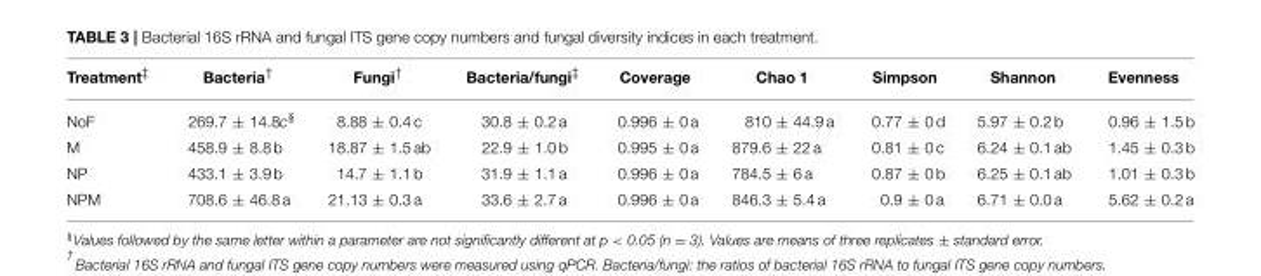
<table><thead><tr><td>Treatment<sup>‡</sup></td><td>Bacteria<sup>†</sup></td><td>Fungi<sup>†</sup></td><td>Bacteria/fungi<sup>‡</sup></td><td>Coverage</td><td>Chao 1</td><td>Simpson</td><td>Shannon</td><td>Evenness</td></tr></thead><tbody><tr><td>NoF</td><td>269.7 ± 14.8c<sup>§</sup></td><td>8.88 ± 0.4 c</td><td>30.8 ± 0.2 a</td><td>0.996 ± 0 a</td><td>810 ± 44.9 a</td><td>0.77 ± 0 d</td><td>5.97 ± 0.2 b</td><td>0.96 ± 1.5 b</td></tr><tr><td>M</td><td>458.9 ± 8.8 b</td><td>18.87 ± 1.5 ab</td><td>22.9 ± 1.0 b</td><td>0.995 ± 0 a</td><td>879.6 ± 22 a</td><td>0.81 ± 0 c</td><td>6.24 ± 0.1 ab</td><td>1.45 ± 0.3 b</td></tr><tr><td>NP</td><td>433.1 ± 3.9 b</td><td>14.7 ± 1.1 b</td><td>31.9 ± 1.1 a</td><td>0.996 ± 0 a</td><td>784.5 ± 6 a</td><td>0.87 ± 0 b</td><td>6.25 ± 0.1 ab</td><td>1.01 ± 0.3 b</td></tr><tr><td>NPM</td><td>708.6 ± 46.8 a</td><td>21.13 ± 0.3 a</td><td>33.6 ± 2.7 a</td><td>0.996 ± 0 a</td><td>846.3 ± 5.4 a</td><td>0.9 ± 0 a</td><td>6.71 ± 0.0 a</td><td>5.62 ± 0.2 a</td></tr></tbody></table>